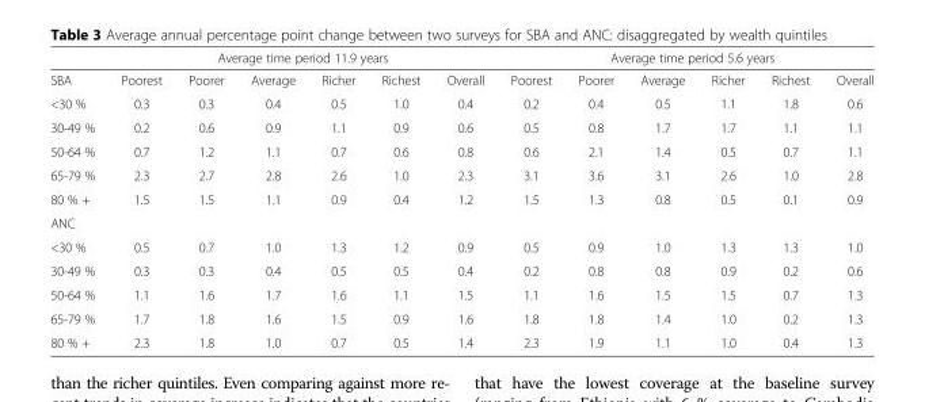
<table><thead><tr><td rowspan="2">SBA</td><td colspan="6">Average time period 11.9 years</td><td colspan="6">Average time period 5.6 years</td></tr><tr><td>Poorest</td><td>Poorer</td><td>Average</td><td>Richer</td><td>Richest</td><td>Overall</td><td>Poorest</td><td>Poorer</td><td>Average</td><td>Richer</td><td>Richest</td><td>Overall</td></tr></thead><tbody><tr><td>&lt;30 %</td><td>0.3</td><td>0.3</td><td>0.4</td><td>0.5</td><td>1.0</td><td>0.4</td><td>0.2</td><td>0.4</td><td>0.5</td><td>1.1</td><td>1.8</td><td>0.6</td></tr><tr><td>30-49 %</td><td>0.2</td><td>0.6</td><td>0.9</td><td>1.1</td><td>0.9</td><td>0.6</td><td>0.5</td><td>0.8</td><td>1.7</td><td>1.7</td><td>1.1</td><td>1.1</td></tr><tr><td>50-64 %</td><td>0.7</td><td>1.2</td><td>1.1</td><td>0.7</td><td>0.6</td><td>0.8</td><td>0.6</td><td>2.1</td><td>1.4</td><td>0.5</td><td>0.7</td><td>1.1</td></tr><tr><td>65-79 %</td><td>2.3</td><td>2.7</td><td>2.8</td><td>2.6</td><td>1.0</td><td>2.3</td><td>3.1</td><td>3.6</td><td>3.1</td><td>2.6</td><td>1.0</td><td>2.8</td></tr><tr><td>80 % +</td><td>1.5</td><td>1.5</td><td>1.1</td><td>0.9</td><td>0.4</td><td>1.2</td><td>1.5</td><td>1.3</td><td>0.8</td><td>0.5</td><td>0.1</td><td>0.9</td></tr><tr><td colspan="13">ANC</td></tr><tr><td>&lt;30 %</td><td>0.5</td><td>0.7</td><td>1.0</td><td>1.3</td><td>1.2</td><td>0.9</td><td>0.5</td><td>0.9</td><td>1.0</td><td>1.3</td><td>1.3</td><td>1.0</td></tr><tr><td>30-49 %</td><td>0.3</td><td>0.3</td><td>0.4</td><td>0.5</td><td>0.5</td><td>0.4</td><td>0.2</td><td>0.8</td><td>0.8</td><td>0.9</td><td>0.2</td><td>0.6</td></tr><tr><td>50-64 %</td><td>1.1</td><td>1.6</td><td>1.7</td><td>1.6</td><td>1.1</td><td>1.5</td><td>1.1</td><td>1.6</td><td>1.5</td><td>1.5</td><td>0.7</td><td>1.3</td></tr><tr><td>65-79 %</td><td>1.7</td><td>1.8</td><td>1.6</td><td>1.5</td><td>0.9</td><td>1.6</td><td>1.8</td><td>1.8</td><td>1.4</td><td>1.0</td><td>0.2</td><td>1.3</td></tr><tr><td>80 % +</td><td>2.3</td><td>1.8</td><td>1.0</td><td>0.7</td><td>0.5</td><td>1.4</td><td>2.3</td><td>1.9</td><td>1.1</td><td>1.0</td><td>0.4</td><td>1.3</td></tr></tbody></table>